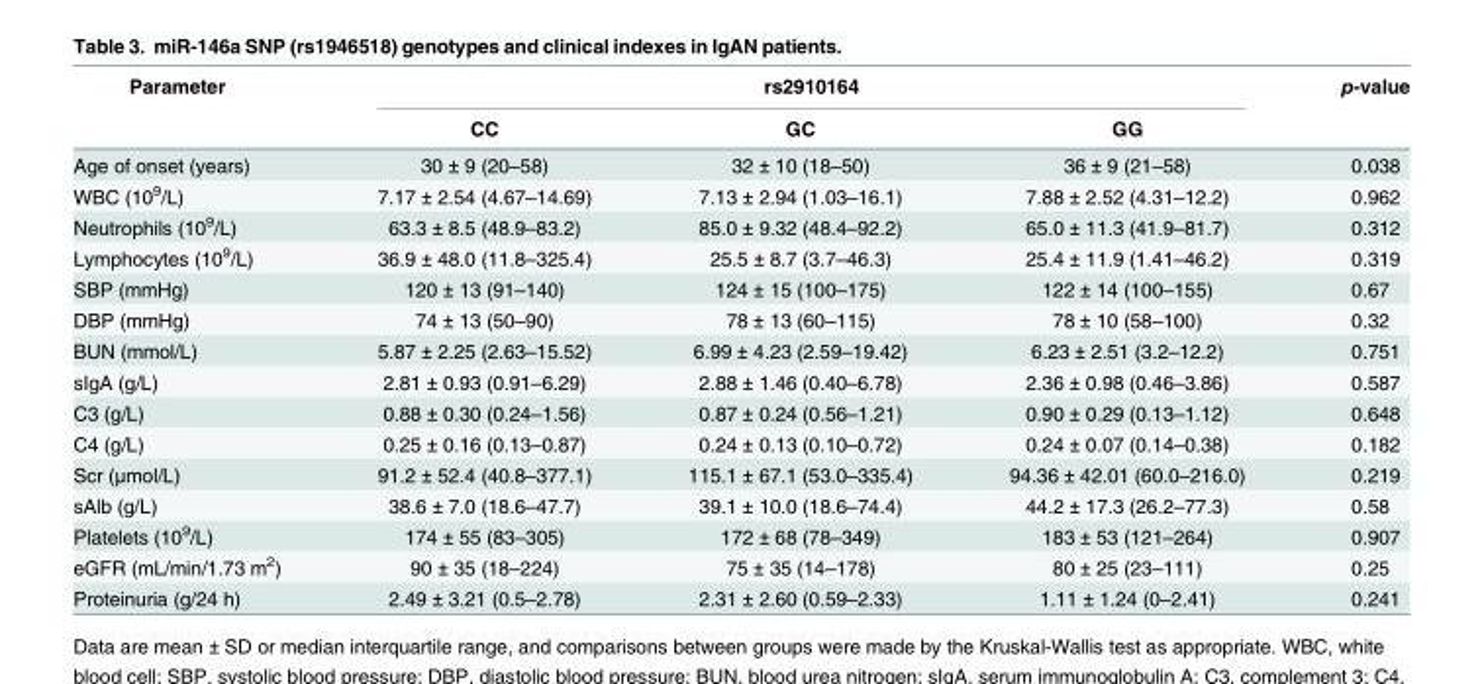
<table><thead><tr><td rowspan="2">Parameter</td><td colspan="3">rs2910164</td><td rowspan="2">p-value</td></tr><tr><td>CC</td><td>GC</td><td>GG</td></tr></thead><tbody><tr><td>Age of onset (years)</td><td>30 ± 9 (20–58)</td><td>32 ± 10 (18–50)</td><td>36 ± 9 (21–58)</td><td>0.038</td></tr><tr><td>WBC (10<sup>9</sup>/L)</td><td>7.17 ± 2.54 (4.67–14.69)</td><td>7.13 ± 2.94 (1.03–16.1)</td><td>7.88 ± 2.52 (4.31–12.2)</td><td>0.962</td></tr><tr><td>Neutrophils (10<sup>9</sup>/L)</td><td>63.3 ± 8.5 (48.9–83.2)</td><td>85.0 ± 9.32 (48.4–92.2)</td><td>65.0 ± 11.3 (41.9–81.7)</td><td>0.312</td></tr><tr><td>Lymphocytes (10<sup>9</sup>/L)</td><td>36.9 ± 48.0 (11.8–325.4)</td><td>25.5 ± 8.7 (3.7–46.3)</td><td>25.4 ± 11.9 (1.41–46.2)</td><td>0.319</td></tr><tr><td>SBP (mmHg)</td><td>120 ± 13 (91–140)</td><td>124 ± 15 (100–175)</td><td>122 ± 14 (100–155)</td><td>0.67</td></tr><tr><td>DBP (mmHg)</td><td>74 ± 13 (50–90)</td><td>78 ± 13 (60–115)</td><td>78 ± 10 (58–100)</td><td>0.32</td></tr><tr><td>BUN (mmol/L)</td><td>5.87 ± 2.25 (2.63–15.52)</td><td>6.99 ± 4.23 (2.59–19.42)</td><td>6.23 ± 2.51 (3.2–12.2)</td><td>0.751</td></tr><tr><td>sIgA (g/L)</td><td>2.81 ± 0.93 (0.91–6.29)</td><td>2.88 ± 1.46 (0.40–6.78)</td><td>2.36 ± 0.98 (0.46–3.86)</td><td>0.587</td></tr><tr><td>C3 (g/L)</td><td>0.88 ± 0.30 (0.24–1.56)</td><td>0.87 ± 0.24 (0.56–1.21)</td><td>0.90 ± 0.29 (0.13–1.12)</td><td>0.648</td></tr><tr><td>C4 (g/L)</td><td>0.25 ± 0.16 (0.13–0.87)</td><td>0.24 ± 0.13 (0.10–0.72)</td><td>0.24 ± 0.07 (0.14–0.38)</td><td>0.182</td></tr><tr><td>Scr (μmol/L)</td><td>91.2 ± 52.4 (40.8–377.1)</td><td>115.1 ± 67.1 (53.0–335.4)</td><td>94.36 ± 42.01 (60.0–216.0)</td><td>0.219</td></tr><tr><td>sAlb (g/L)</td><td>38.6 ± 7.0 (18.6–47.7)</td><td>39.1 ± 10.0 (18.6–74.4)</td><td>44.2 ± 17.3 (26.2–77.3)</td><td>0.58</td></tr><tr><td>Platelets (10<sup>9</sup>/L)</td><td>174 ± 55 (83–305)</td><td>172 ± 68 (78–349)</td><td>183 ± 53 (121–264)</td><td>0.907</td></tr><tr><td>eGFR (mL/min/1.73 m<sup>2</sup>)</td><td>90 ± 35 (18–224)</td><td>75 ± 35 (14–178)</td><td>80 ± 25 (23–111)</td><td>0.25</td></tr><tr><td>Proteinuria (g/24 h)</td><td>2.49 ± 3.21 (0.5–2.78)</td><td>2.31 ± 2.60 (0.59–2.33)</td><td>1.11 ± 1.24 (0–2.41)</td><td>0.241</td></tr></tbody></table>